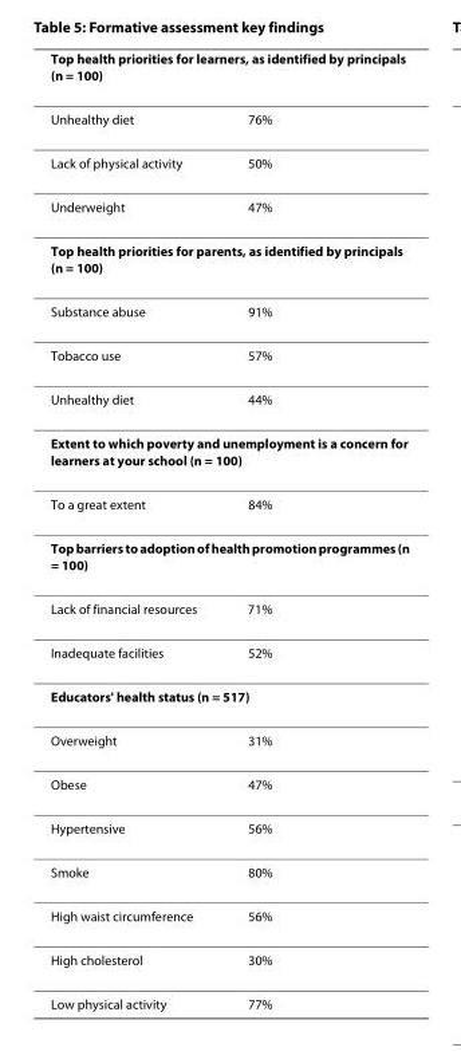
<table><thead><tr><td colspan="2">Top health priorities for learners, as identified by principals (n = 100)</td></tr><tr><td>Unhealthy diet</td><td>76%</td></tr></thead><tbody><tr><td>Lack of physical activity</td><td>50%</td></tr><tr><td>Underweight</td><td>47%</td></tr><tr><td colspan="2">Top health priorities for parents, as identified by principals (n = 100)</td></tr><tr><td>Substance abuse</td><td>91%</td></tr><tr><td>Tobacco use</td><td>57%</td></tr><tr><td>Unhealthy diet</td><td>44%</td></tr><tr><td colspan="2">Extent to which poverty and unemployment is a concern for learners at your school (n = 100)</td></tr><tr><td>To a great extent</td><td>84%</td></tr><tr><td colspan="2">Top barriers to adoption of health promotion programmes (n = 100)</td></tr><tr><td>Lack of financial resources</td><td>71%</td></tr><tr><td>Inadequate facilities</td><td>52%</td></tr><tr><td colspan="2">Educators&#x27; health status (n = 517)</td></tr><tr><td>Overweight</td><td>31%</td></tr><tr><td>Obese</td><td>47%</td></tr><tr><td>Hypertensive</td><td>56%</td></tr><tr><td>Smoke</td><td>80%</td></tr><tr><td>High waist circumference</td><td>56%</td></tr><tr><td>High cholesterol</td><td>30%</td></tr><tr><td>Low physical activity</td><td>77%</td></tr></tbody></table>